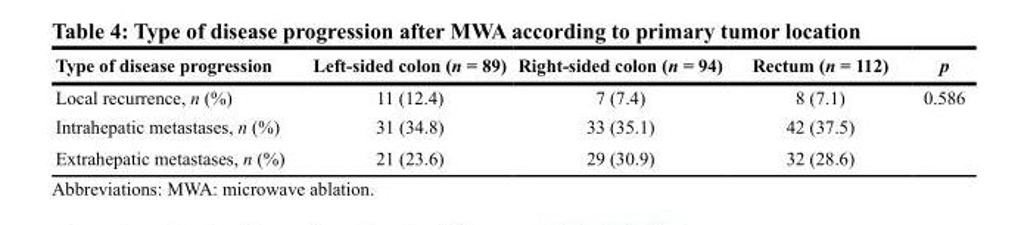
<table><thead><tr><td>Type of disease progression</td><td>Left-sided colon (n = 89)</td><td>Right-sided colon (n = 94)</td><td>Rectum (n = 112)</td><td>p</td></tr></thead><tbody><tr><td>Local recurrence, n (%)</td><td>11 (12.4)</td><td>7 (7.4)</td><td>8 (7.1)</td><td>0.586</td></tr><tr><td>Intrahepatic metastases, n (%)</td><td>31 (34.8)</td><td>33 (35.1)</td><td>42 (37.5)</td><td></td></tr><tr><td>Extrahepatic metastases, n (%)</td><td>21 (23.6)</td><td>29 (30.9)</td><td>32 (28.6)</td><td></td></tr></tbody></table>